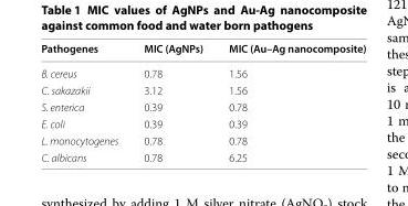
<table><thead><tr><td>Pathogenes</td><td>MIC (AgNPs)</td><td>MIC (Au–Ag nanocomposite)</td></tr></thead><tbody><tr><td>B. cereus</td><td>0.78</td><td>1.56</td></tr><tr><td>C. sakazakii</td><td>3.12</td><td>1.56</td></tr><tr><td>S. enterica</td><td>0.39</td><td>0.78</td></tr><tr><td>E. coli</td><td>0.39</td><td>0.39</td></tr><tr><td>L. monocytogenes</td><td>0.78</td><td>0.78</td></tr><tr><td>C. albicans</td><td>0.78</td><td>6.25</td></tr></tbody></table>